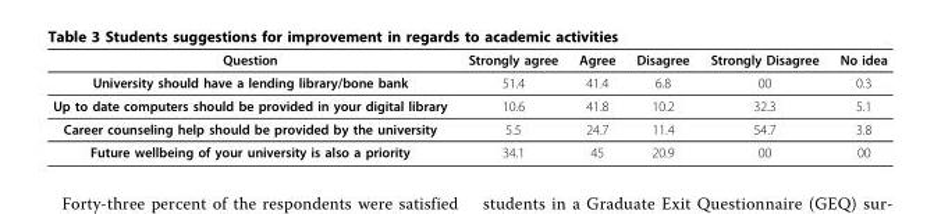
<table><thead><tr><td>Question</td><td>Strongly agree</td><td>Agree</td><td>Disagree</td><td>Strongly Disagree</td><td>No idea</td></tr></thead><tbody><tr><td>University should have a lending library/bone bank</td><td>51.4</td><td>41.4</td><td>6.8</td><td>00</td><td>0.3</td></tr><tr><td>Up to date computers should be provided in your digital library</td><td>10.6</td><td>41.8</td><td>10.2</td><td>32.3</td><td>5.1</td></tr><tr><td>Career counseling help should be provided by the university</td><td>5.5</td><td>24.7</td><td>11.4</td><td>54.7</td><td>3.8</td></tr><tr><td>Future wellbeing of your university is also a priority</td><td>34.1</td><td>45</td><td>20.9</td><td>00</td><td>00</td></tr></tbody></table>